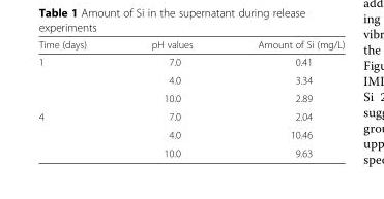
<table><thead><tr><td>Time (days)</td><td>pH values</td><td>Amount of Si (mg/L)</td></tr></thead><tbody><tr><td rowspan="3">1</td><td>7.0</td><td>0.41</td></tr><tr><td>4.0</td><td>3.34</td></tr><tr><td>10.0</td><td>2.89</td></tr><tr><td rowspan="3">4</td><td>7.0</td><td>2.04</td></tr><tr><td>4.0</td><td>10.46</td></tr><tr><td>10.0</td><td>9.63</td></tr></tbody></table>